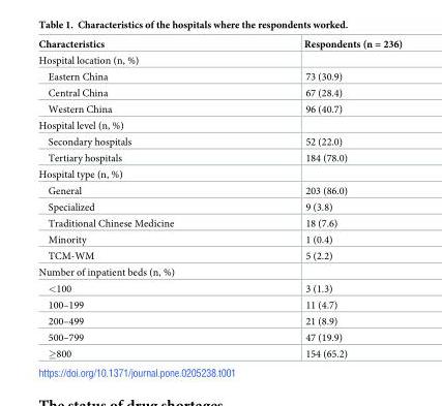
<table><thead><tr><td>Characteristics</td><td>Respondents (n = 236)</td></tr></thead><tbody><tr><td colspan="2">Hospital location (n, %)</td></tr><tr><td>Eastern China</td><td>73 (30.9)</td></tr><tr><td>Central China</td><td>67 (28.4)</td></tr><tr><td>Western China</td><td>96 (40.7)</td></tr><tr><td colspan="2">Hospital level (n, %)</td></tr><tr><td>Secondary hospitals</td><td>52 (22.0)</td></tr><tr><td>Tertiary hospitals</td><td>184 (78.0)</td></tr><tr><td colspan="2">Hospital type (n, %)</td></tr><tr><td>General</td><td>203 (86.0)</td></tr><tr><td>Specialized</td><td>9 (3.8)</td></tr><tr><td>Traditional Chinese Medicine</td><td>18 (7.6)</td></tr><tr><td>Minority</td><td>1 (0.4)</td></tr><tr><td>TCM-WM</td><td>5 (2.2)</td></tr><tr><td colspan="2">Number of inpatient beds (n, %)</td></tr><tr><td>&lt;100</td><td>3 (1.3)</td></tr><tr><td>100–199</td><td>11 (4.7)</td></tr><tr><td>200–499</td><td>21 (8.9)</td></tr><tr><td>500–799</td><td>47 (19.9)</td></tr><tr><td>≥800</td><td>154 (65.2)</td></tr></tbody></table>